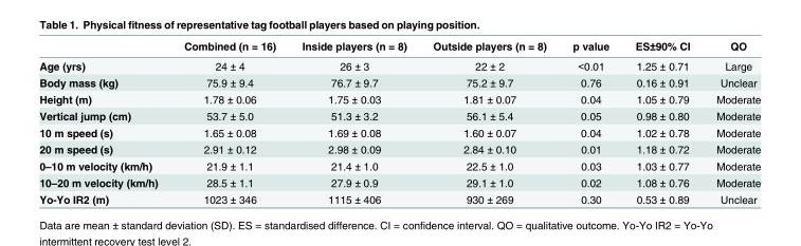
<table><thead><tr><td></td><td>Combined (n = 16)</td><td>Inside players (n = 8)</td><td>Outside players (n = 8)</td><td>p value</td><td>ES±90% CI</td><td>QO</td></tr></thead><tbody><tr><td>Age (yrs)</td><td>24 ± 4</td><td>26 ± 3</td><td>22 ± 2</td><td>&lt;0.01</td><td>1.25 ± 0.71</td><td>Large</td></tr><tr><td>Body mass (kg)</td><td>75.9 ± 9.4</td><td>76.7 ± 9.7</td><td>75.2 ± 9.7</td><td>0.76</td><td>0.16 ± 0.91</td><td>Unclear</td></tr><tr><td>Height (m)</td><td>1.78 ± 0.06</td><td>1.75 ± 0.03</td><td>1.81 ± 0.07</td><td>0.04</td><td>1.05 ± 0.79</td><td>Moderate</td></tr><tr><td>Vertical jump (cm)</td><td>53.7 ± 5.0</td><td>51.3 ± 3.2</td><td>56.1 ± 5.4</td><td>0.05</td><td>0.98 ± 0.80</td><td>Moderate</td></tr><tr><td>10 m speed (s)</td><td>1.65 ± 0.08</td><td>1.69 ± 0.08</td><td>1.60 ± 0.07</td><td>0.04</td><td>1.02 ± 0.78</td><td>Moderate</td></tr><tr><td>20 m speed (s)</td><td>2.91 ± 0.12</td><td>2.98 ± 0.09</td><td>2.84 ± 0.10</td><td>0.01</td><td>1.18 ± 0.72</td><td>Moderate</td></tr><tr><td>0–10 m velocity (km/h)</td><td>21.9 ± 1.1</td><td>21.4 ± 1.0</td><td>22.5 ± 1.0</td><td>0.03</td><td>1.03 ± 0.77</td><td>Moderate</td></tr><tr><td>10–20 m velocity (km/h)</td><td>28.5 ± 1.1</td><td>27.9 ± 0.9</td><td>29.1 ± 1.0</td><td>0.02</td><td>1.08 ± 0.76</td><td>Moderate</td></tr><tr><td>Yo-Yo IR2 (m)</td><td>1023 ± 346</td><td>1115 ± 406</td><td>930 ± 269</td><td>0.30</td><td>0.53 ± 0.89</td><td>Unclear</td></tr></tbody></table>